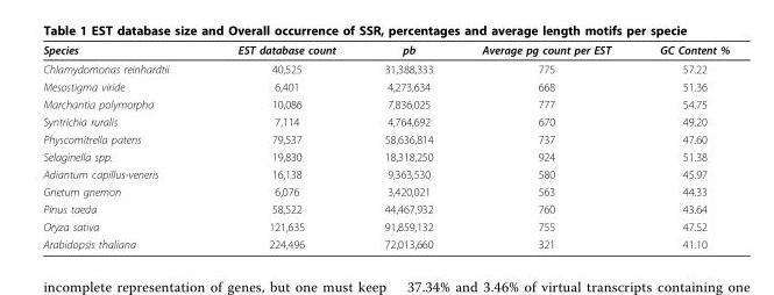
<table><thead><tr><td>Species</td><td>EST database count</td><td>pb</td><td>Average pg count per EST</td><td>GC Content %</td></tr></thead><tbody><tr><td>Chlamydomonas reinhardtii</td><td>40,525</td><td>31,388,333</td><td>775</td><td>57.22</td></tr><tr><td>Mesostigma viride</td><td>6,401</td><td>4,273,634</td><td>668</td><td>51.36</td></tr><tr><td>Marchantia polymorpha</td><td>10,086</td><td>7,836,025</td><td>777</td><td>54.75</td></tr><tr><td>Syntrichia ruralis</td><td>7,114</td><td>4,764,692</td><td>670</td><td>49.20</td></tr><tr><td>Physcomitrella patens</td><td>79,537</td><td>58,636,814</td><td>737</td><td>47.60</td></tr><tr><td>Selaginella spp.</td><td>19,830</td><td>18,318,250</td><td>924</td><td>51.38</td></tr><tr><td>Adiantum capillus-veneris</td><td>16,138</td><td>9,363,530</td><td>580</td><td>45.97</td></tr><tr><td>Gnetum gnemon</td><td>6,076</td><td>3,420,021</td><td>563</td><td>44.33</td></tr><tr><td>Pinus taeda</td><td>58,522</td><td>44,467,932</td><td>760</td><td>43.64</td></tr><tr><td>Oryza sativa</td><td>121,635</td><td>91,859,132</td><td>755</td><td>47.52</td></tr><tr><td>Arabidopsis thaliana</td><td>224,496</td><td>72,013,660</td><td>321</td><td>41.10</td></tr></tbody></table>